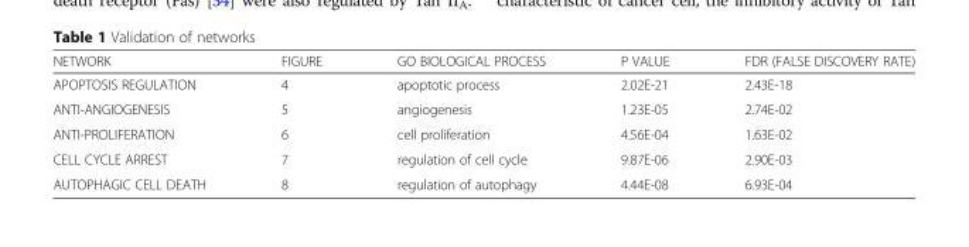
<table><thead><tr><td>NETWORK</td><td>FIGURE</td><td>GO BIOLOGICAL PROCESS</td><td>P VALUE</td><td>FDR (FALSE DISCOVERY RATE)</td></tr></thead><tbody><tr><td>APOPTOSIS REGULATION</td><td>4</td><td>apoptotic process</td><td>2.02E-21</td><td>2.43E-18</td></tr><tr><td>ANTI-ANGIOGENESIS</td><td>5</td><td>angiogenesis</td><td>1.23E-05</td><td>2.74E-02</td></tr><tr><td>ANTI-PROLIFERATION</td><td>6</td><td>cell proliferation</td><td>4.56E-04</td><td>1.63E-02</td></tr><tr><td>CELL CYCLE ARREST</td><td>7</td><td>regulation of cell cycle</td><td>9.87E-06</td><td>2.90E-03</td></tr><tr><td>AUTOPHAGIC CELL DEATH</td><td>8</td><td>regulation of autophagy</td><td>4.44E-08</td><td>6.93E-04</td></tr></tbody></table>